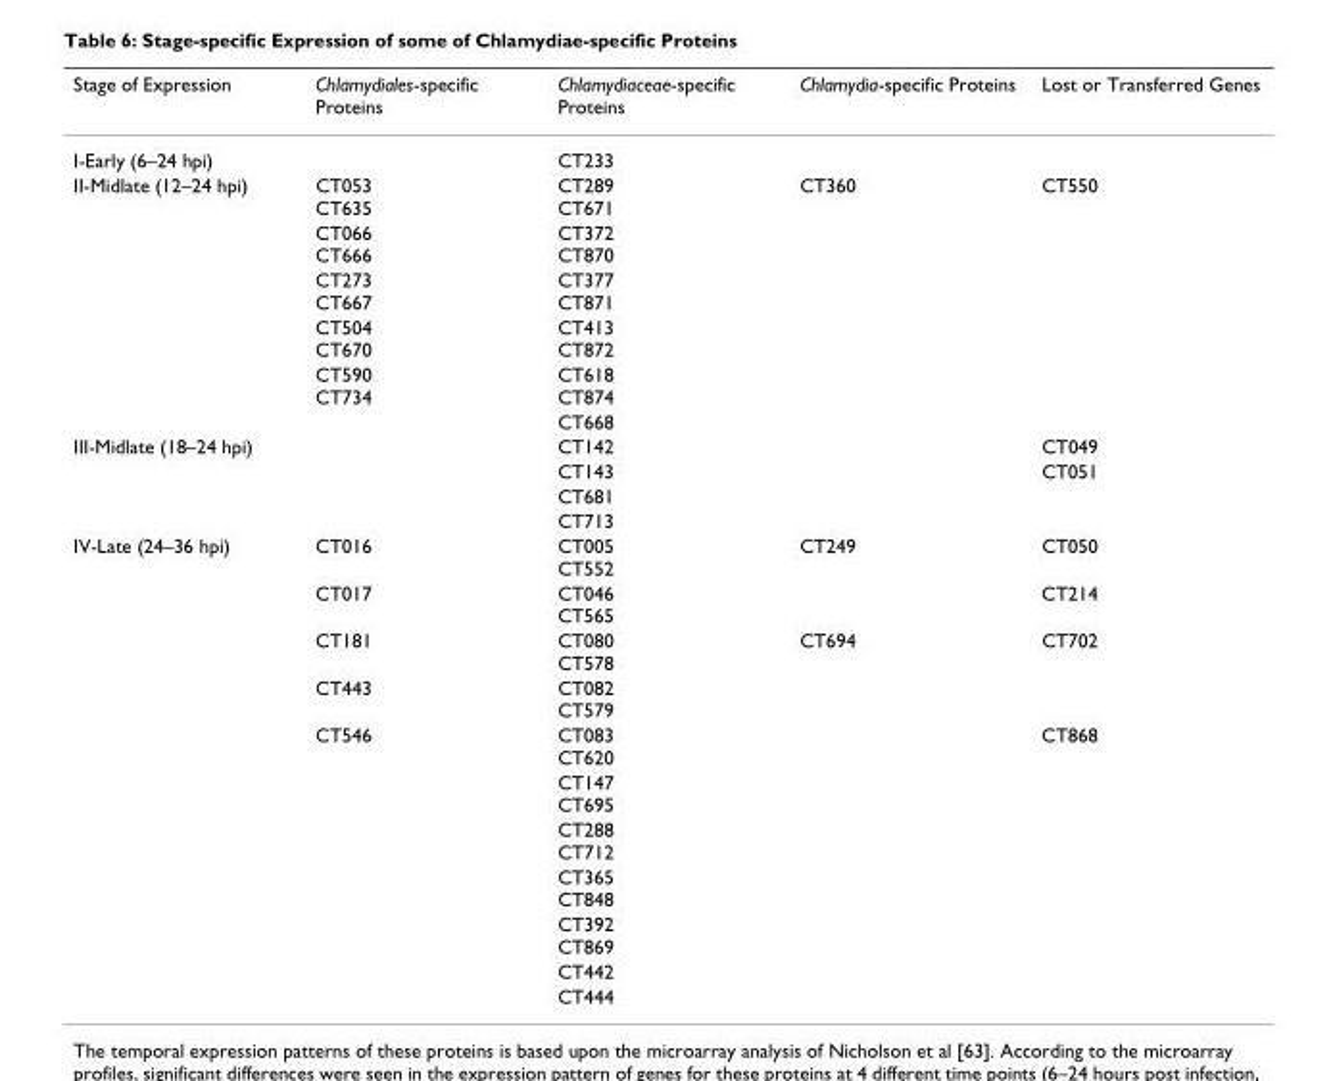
<table><thead><tr><td>Stage of Expression</td><td>Chlamydiales-specific Proteins</td><td>Chlamydiaceae-specific Proteins</td><td>Chlamydia-specific Proteins</td><td>Lost or Transferred Genes</td></tr></thead><tbody><tr><td>I-Early (6–24 hpi)</td><td></td><td>CT233</td><td></td><td></td></tr><tr><td rowspan="6">II-Midlate (12–24 hpi)</td><td>CT053 CT635</td><td>CT289 CT671</td><td>CT360</td><td>CT550</td></tr><tr><td>CT066 CT666</td><td>CT372 CT870</td><td></td><td></td></tr><tr><td>CT273 CT667</td><td>CT377 CT871</td><td></td><td></td></tr><tr><td>CT504 CT670</td><td>CT413 CT872</td><td></td><td></td></tr><tr><td>CT590 CT734</td><td>CT618 CT874</td><td></td><td></td></tr><tr><td></td><td>CT668</td><td></td><td></td></tr><tr><td rowspan="4">III-Midlate (18–24 hpi)</td><td></td><td>CT142</td><td></td><td>CT049</td></tr><tr><td></td><td>CT143</td><td></td><td>CT051</td></tr><tr><td></td><td>CT681</td><td></td><td></td></tr><tr><td></td><td>CT713</td><td></td><td></td></tr><tr><td rowspan="11">IV-Late (24–36 hpi)</td><td>CT016</td><td>CT005 CT552</td><td>CT249</td><td>CT050</td></tr><tr><td>CT017</td><td>CT046 CT565</td><td></td><td>CT214</td></tr><tr><td>CT181</td><td>CT080 CT578</td><td>CT694</td><td>CT702</td></tr><tr><td>CT443</td><td>CT082 CT579</td><td></td><td></td></tr><tr><td>CT546</td><td>CT083 CT620</td><td></td><td>CT868</td></tr><tr><td></td><td>CT147 CT695</td><td></td><td></td></tr><tr><td></td><td>CT288 CT712</td><td></td><td></td></tr><tr><td></td><td>CT365 CT848</td><td></td><td></td></tr><tr><td></td><td>CT392 CT869</td><td></td><td></td></tr><tr><td></td><td>CT442</td><td></td><td></td></tr><tr><td></td><td>CT444</td><td></td><td></td></tr></tbody></table>